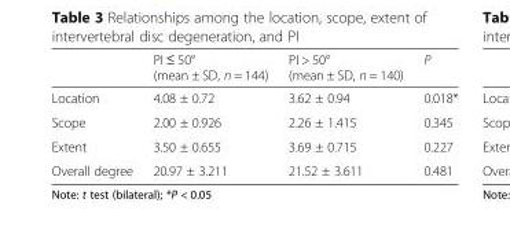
<table><thead><tr><td></td><td>PI ≤ 50° (mean ± SD, n = 144)</td><td>PI &gt; 50° (mean ± SD, n = 140)</td><td>P</td></tr></thead><tbody><tr><td>Location</td><td>4.08 ± 0.72</td><td>3.62 ± 0.94</td><td>0.018*</td></tr><tr><td>Scope</td><td>2.00 ± 0.926</td><td>2.26 ± 1.415</td><td>0.345</td></tr><tr><td>Extent</td><td>3.50 ± 0.655</td><td>3.69 ± 0.715</td><td>0.227</td></tr><tr><td>Overall degree</td><td>20.97 ± 3.211</td><td>21.52 ± 3.611</td><td>0.481</td></tr></tbody></table>